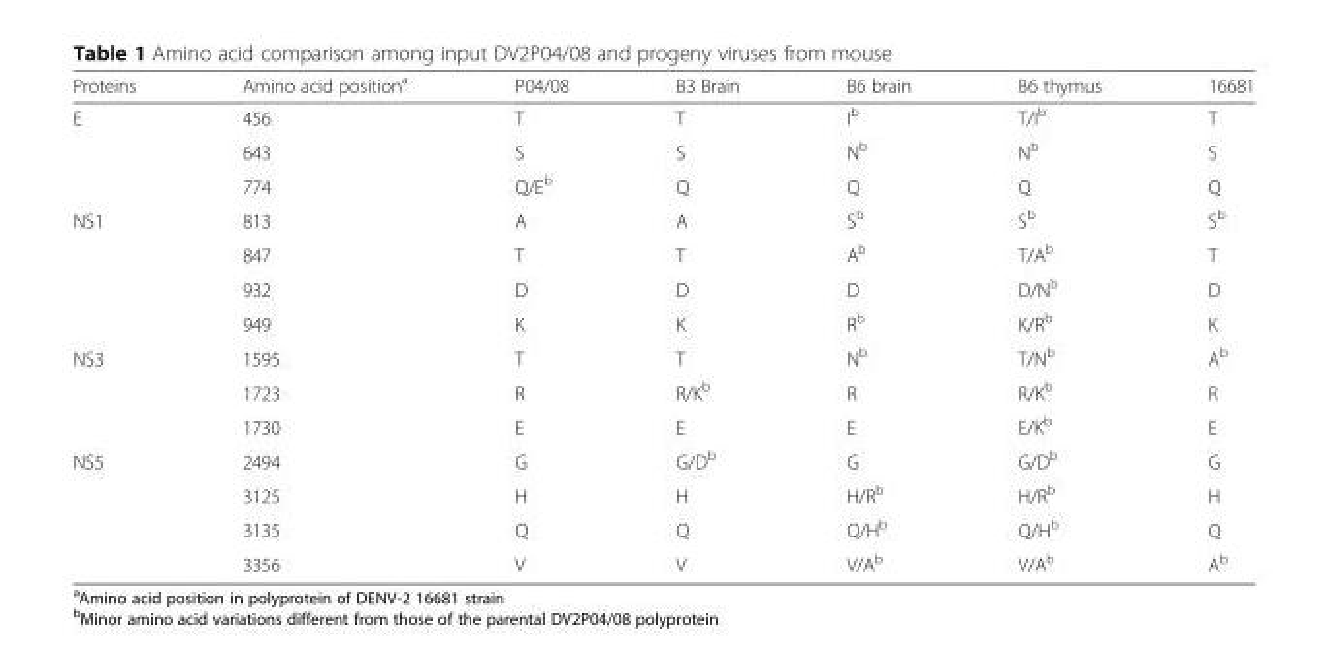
<table><thead><tr><td>Proteins</td><td>Amino acid position<sup>a</sup></td><td>P04/08</td><td>B3 Brain</td><td>B6 brain</td><td>B6 thymus</td><td>16681</td></tr></thead><tbody><tr><td rowspan="3">E</td><td>456</td><td>T</td><td>T</td><td>I<sup>b</sup></td><td>T/I<sup>b</sup></td><td>T</td></tr><tr><td>643</td><td>S</td><td>S</td><td>N<sup>b</sup></td><td>N<sup>b</sup></td><td>S</td></tr><tr><td>774</td><td>Q/E<sup>b</sup></td><td>Q</td><td>Q</td><td>Q</td><td>Q</td></tr><tr><td rowspan="4">NS1</td><td>813</td><td>A</td><td>A</td><td>S<sup>b</sup></td><td>S<sup>b</sup></td><td>S<sup>b</sup></td></tr><tr><td>847</td><td>T</td><td>T</td><td>A<sup>b</sup></td><td>T/A<sup>b</sup></td><td>T</td></tr><tr><td>932</td><td>D</td><td>D</td><td>D</td><td>D/N<sup>b</sup></td><td>D</td></tr><tr><td>949</td><td>K</td><td>K</td><td>R<sup>b</sup></td><td>K/R<sup>b</sup></td><td>K</td></tr><tr><td rowspan="3">NS3</td><td>1595</td><td>T</td><td>T</td><td>N<sup>b</sup></td><td>T/N<sup>b</sup></td><td>A<sup>b</sup></td></tr><tr><td>1723</td><td>R</td><td>R/K<sup>b</sup></td><td>R</td><td>R/K<sup>b</sup></td><td>R</td></tr><tr><td>1730</td><td>E</td><td>E</td><td>E</td><td>E/K<sup>b</sup></td><td>E</td></tr><tr><td rowspan="4">NS5</td><td>2494</td><td>G</td><td>G/D<sup>b</sup></td><td>G</td><td>G/D<sup>b</sup></td><td>G</td></tr><tr><td>3125</td><td>H</td><td>H</td><td>H/R<sup>b</sup></td><td>H/R<sup>b</sup></td><td>H</td></tr><tr><td>3135</td><td>Q</td><td>Q</td><td>Q/H<sup>b</sup></td><td>Q/H<sup>b</sup></td><td>Q</td></tr><tr><td>3356</td><td>V</td><td>V</td><td>V/A<sup>b</sup></td><td>V/A<sup>b</sup></td><td>A<sup>b</sup></td></tr></tbody></table>